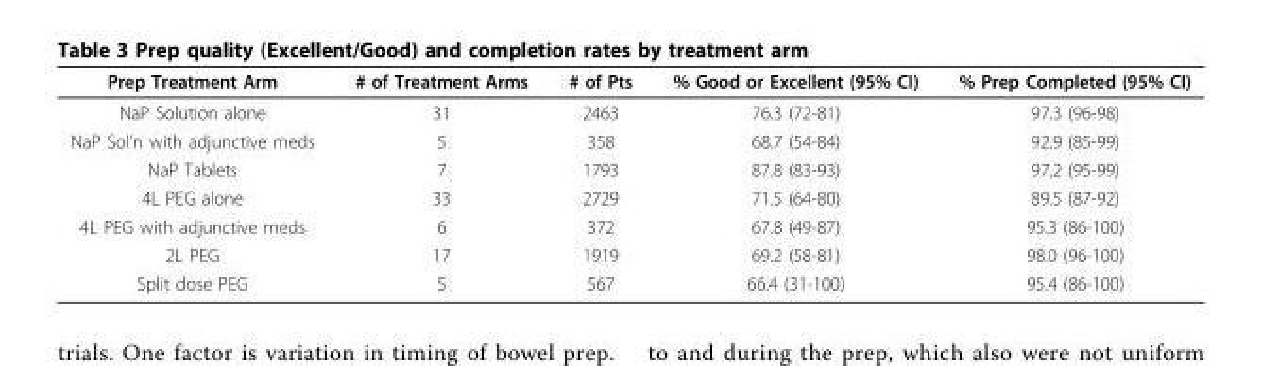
<table><thead><tr><td>Prep Treatment Arm</td><td># of Treatment Arms</td><td># of Pts</td><td>% Good or Excellent (95% CI)</td><td>% Prep Completed (95% CI)</td></tr></thead><tbody><tr><td>NaP Solution alone</td><td>31</td><td>2463</td><td>76.3 (72-81)</td><td>97.3 (96-98)</td></tr><tr><td>NaP Sol’n with adjunctive meds</td><td>5</td><td>358</td><td>68.7 (54-84)</td><td>92.9 (85-99)</td></tr><tr><td>NaP Tablets</td><td>7</td><td>1793</td><td>87.8 (83-93)</td><td>97.2 (95-99)</td></tr><tr><td>4L PEG alone</td><td>33</td><td>2729</td><td>71.5 (64-80)</td><td>89.5 (87-92)</td></tr><tr><td>4L PEG with adjunctive meds</td><td>6</td><td>372</td><td>67.8 (49-87)</td><td>95.3 (86-100)</td></tr><tr><td>2L PEG</td><td>17</td><td>1919</td><td>69.2 (58-81)</td><td>98.0 (96-100)</td></tr><tr><td>Split dose PEG</td><td>5</td><td>567</td><td>66.4 (31-100)</td><td>95.4 (86-100)</td></tr></tbody></table>